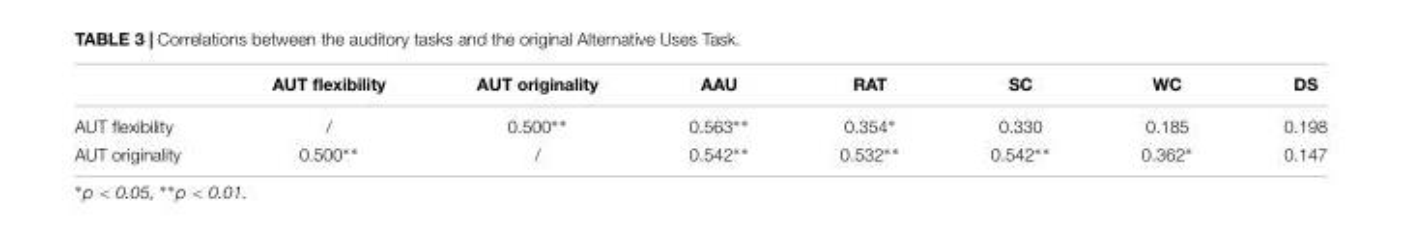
<table><thead><tr><td></td><td>AUT flexibility</td><td>AUT originality</td><td>AAU</td><td>RAT</td><td>SC</td><td>WC</td><td>DS</td></tr></thead><tbody><tr><td>AUT flexibility</td><td>/</td><td>0.500∗∗</td><td>0.563∗∗</td><td>0.354∗</td><td>0.330</td><td>0.185</td><td>0.198</td></tr><tr><td>AUT originality</td><td>0.500∗∗</td><td>/</td><td>0.542∗∗</td><td>0.532∗∗</td><td>0.542∗∗</td><td>0.362∗</td><td>0.147</td></tr></tbody></table>